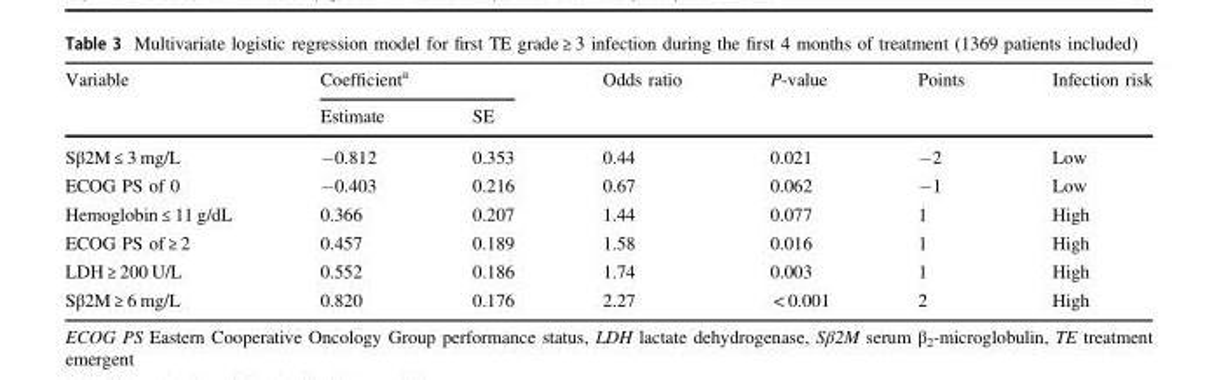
<table><thead><tr><td rowspan="2">Variable</td><td colspan="2">Coefficient<sup>a</sup></td><td rowspan="2">Odds ratio</td><td rowspan="2">P-value</td><td rowspan="2">Points</td><td rowspan="2">Infection risk</td></tr><tr><td>Estimate</td><td>SE</td></tr></thead><tbody><tr><td>Sβ2M ≤ 3 mg/L</td><td>−0.812</td><td>0.353</td><td>0.44</td><td>0.021</td><td>−2</td><td>Low</td></tr><tr><td>ECOG PS of 0</td><td>−0.403</td><td>0.216</td><td>0.67</td><td>0.062</td><td>−1</td><td>Low</td></tr><tr><td>Hemoglobin ≤ 11 g/dL</td><td>0.366</td><td>0.207</td><td>1.44</td><td>0.077</td><td>1</td><td>High</td></tr><tr><td>ECOG PS of ≥ 2</td><td>0.457</td><td>0.189</td><td>1.58</td><td>0.016</td><td>1</td><td>High</td></tr><tr><td>LDH ≥ 200 U/L</td><td>0.552</td><td>0.186</td><td>1.74</td><td>0.003</td><td>1</td><td>High</td></tr><tr><td>Sβ2M ≥ 6 mg/L</td><td>0.820</td><td>0.176</td><td>2.27</td><td>&lt; 0.001</td><td>2</td><td>High</td></tr></tbody></table>